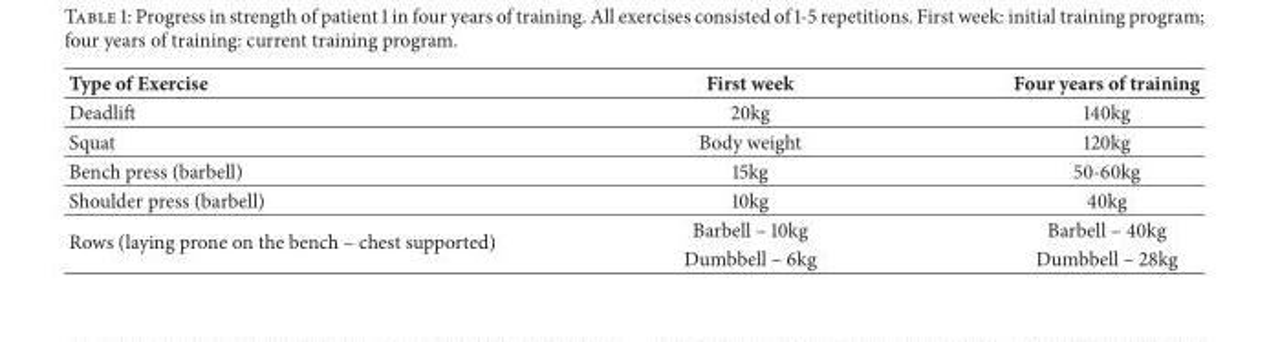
<table><thead><tr><td>Type of Exercise</td><td>First week</td><td>Four years of training</td></tr></thead><tbody><tr><td>Deadlift</td><td>20kg</td><td>140kg</td></tr><tr><td>Squat</td><td>Body weight</td><td>120kg</td></tr><tr><td>Bench press (barbell)</td><td>15kg</td><td>50-60kg</td></tr><tr><td>Shoulder press (barbell)</td><td>10kg</td><td>40kg</td></tr><tr><td rowspan="2">Rows (laying prone on the bench – chest supported)</td><td>Barbell – 10kg</td><td>Barbell – 40kg</td></tr><tr><td>Dumbbell – 6kg</td><td>Dumbbell – 28kg</td></tr></tbody></table>